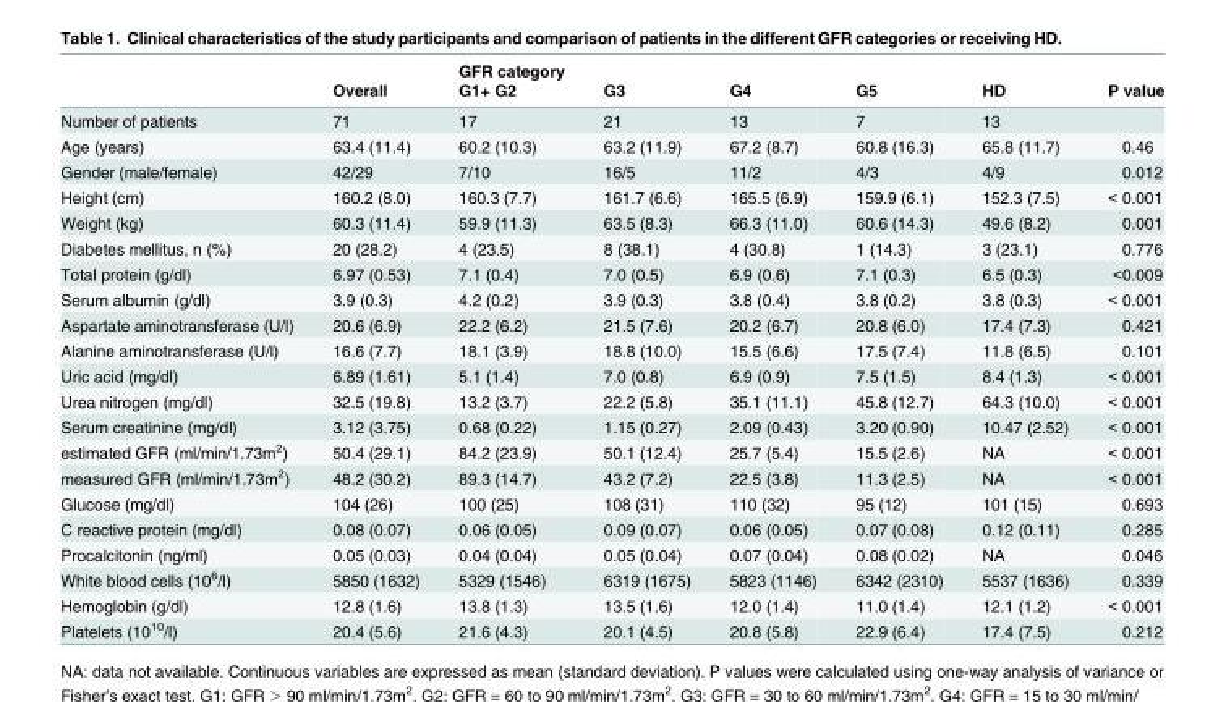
<table><thead><tr><td rowspan="2"></td><td rowspan="2">Overall</td><td rowspan="2">GFR category G1+ G2</td><td rowspan="2">G3</td><td rowspan="2">G4</td><td rowspan="2">G5</td><td rowspan="2">HD</td><td rowspan="2">P value</td></tr><tr></tr></thead><tbody><tr><td>Number of patients</td><td>71</td><td>17</td><td>21</td><td>13</td><td>7</td><td>13</td><td></td></tr><tr><td>Age (years)</td><td>63.4 (11.4)</td><td>60.2 (10.3)</td><td>63.2 (11.9)</td><td>67.2 (8.7)</td><td>60.8 (16.3)</td><td>65.8 (11.7)</td><td>0.46</td></tr><tr><td>Gender (male/female)</td><td>42/29</td><td>7/10</td><td>16/5</td><td>11/2</td><td>4/3</td><td>4/9</td><td>0.012</td></tr><tr><td>Height (cm)</td><td>160.2 (8.0)</td><td>160.3 (7.7)</td><td>161.7 (6.6)</td><td>165.5 (6.9)</td><td>159.9 (6.1)</td><td>152.3 (7.5)</td><td>&lt; 0.001</td></tr><tr><td>Weight (kg)</td><td>60.3 (11.4)</td><td>59.9 (11.3)</td><td>63.5 (8.3)</td><td>66.3 (11.0)</td><td>60.6 (14.3)</td><td>49.6 (8.2)</td><td>0.001</td></tr><tr><td>Diabetes mellitus, n (%)</td><td>20 (28.2)</td><td>4 (23.5)</td><td>8 (38.1)</td><td>4 (30.8)</td><td>1 (14.3)</td><td>3 (23.1)</td><td>0.776</td></tr><tr><td>Total protein (g/dl)</td><td>6.97 (0.53)</td><td>7.1 (0.4)</td><td>7.0 (0.5)</td><td>6.9 (0.6)</td><td>7.1 (0.3)</td><td>6.5 (0.3)</td><td>&lt;0.009</td></tr><tr><td>Serum albumin (g/dl)</td><td>3.9 (0.3)</td><td>4.2 (0.2)</td><td>3.9 (0.3)</td><td>3.8 (0.4)</td><td>3.8 (0.2)</td><td>3.8 (0.3)</td><td>&lt; 0.001</td></tr><tr><td>Aspartate aminotransferase (U/l)</td><td>20.6 (6.9)</td><td>22.2 (6.2)</td><td>21.5 (7.6)</td><td>20.2 (6.7)</td><td>20.8 (6.0)</td><td>17.4 (7.3)</td><td>0.421</td></tr><tr><td>Alanine aminotransferase (U/l)</td><td>16.6 (7.7)</td><td>18.1 (3.9)</td><td>18.8 (10.0)</td><td>15.5 (6.6)</td><td>17.5 (7.4)</td><td>11.8 (6.5)</td><td>0.101</td></tr><tr><td>Uric acid (mg/dl)</td><td>6.89 (1.61)</td><td>5.1 (1.4)</td><td>7.0 (0.8)</td><td>6.9 (0.9)</td><td>7.5 (1.5)</td><td>8.4 (1.3)</td><td>&lt; 0.001</td></tr><tr><td>Urea nitrogen (mg/dl)</td><td>32.5 (19.8)</td><td>13.2 (3.7)</td><td>22.2 (5.8)</td><td>35.1 (11.1)</td><td>45.8 (12.7)</td><td>64.3 (10.0)</td><td>&lt; 0.001</td></tr><tr><td>Serum creatinine (mg/dl)</td><td>3.12 (3.75)</td><td>0.68 (0.22)</td><td>1.15 (0.27)</td><td>2.09 (0.43)</td><td>3.20 (0.90)</td><td>10.47 (2.52)</td><td>&lt; 0.001</td></tr><tr><td>estimated GFR (ml/min/1.73m<sup>2</sup>)</td><td>50.4 (29.1)</td><td>84.2 (23.9)</td><td>50.1 (12.4)</td><td>25.7 (5.4)</td><td>15.5 (2.6)</td><td>NA</td><td>&lt; 0.001</td></tr><tr><td>measured GFR (ml/min/1.73m<sup>2</sup>)</td><td>48.2 (30.2)</td><td>89.3 (14.7)</td><td>43.2 (7.2)</td><td>22.5 (3.8)</td><td>11.3 (2.5)</td><td>NA</td><td>&lt; 0.001</td></tr><tr><td>Glucose (mg/dl)</td><td>104 (26)</td><td>100 (25)</td><td>108 (31)</td><td>110 (32)</td><td>95 (12)</td><td>101 (15)</td><td>0.693</td></tr><tr><td>C reactive protein (mg/dl)</td><td>0.08 (0.07)</td><td>0.06 (0.05)</td><td>0.09 (0.07)</td><td>0.06 (0.05)</td><td>0.07 (0.08)</td><td>0.12 (0.11)</td><td>0.285</td></tr><tr><td>Procalcitonin (ng/ml)</td><td>0.05 (0.03)</td><td>0.04 (0.04)</td><td>0.05 (0.04)</td><td>0.07 (0.04)</td><td>0.08 (0.02)</td><td>NA</td><td>0.046</td></tr><tr><td>White blood cells (10<sup>6</sup>/l)</td><td>5850 (1632)</td><td>5329 (1546)</td><td>6319 (1675)</td><td>5823 (1146)</td><td>6342 (2310)</td><td>5537 (1636)</td><td>0.339</td></tr><tr><td>Hemoglobin (g/dl)</td><td>12.8 (1.6)</td><td>13.8 (1.3)</td><td>13.5 (1.6)</td><td>12.0 (1.4)</td><td>11.0 (1.4)</td><td>12.1 (1.2)</td><td>&lt; 0.001</td></tr><tr><td>Platelets (10<sup>10</sup>/l)</td><td>20.4 (5.6)</td><td>21.6 (4.3)</td><td>20.1 (4.5)</td><td>20.8 (5.8)</td><td>22.9 (6.4)</td><td>17.4 (7.5)</td><td>0.212</td></tr></tbody></table>